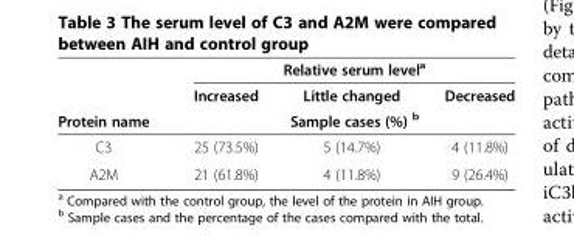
<table><thead><tr><td rowspan="3">Protein name</td><td colspan="3">Relative serum level<sup>a</sup></td></tr><tr><td>Increased</td><td>Little changed</td><td>Decreased</td></tr><tr><td colspan="3">Sample cases (%) <sup>b</sup></td></tr></thead><tbody><tr><td>C3</td><td>25 (73.5%)</td><td>5 (14.7%)</td><td>4 (11.8%)</td></tr><tr><td>A2M</td><td>21 (61.8%)</td><td>4 (11.8%)</td><td>9 (26.4%)</td></tr></tbody></table>